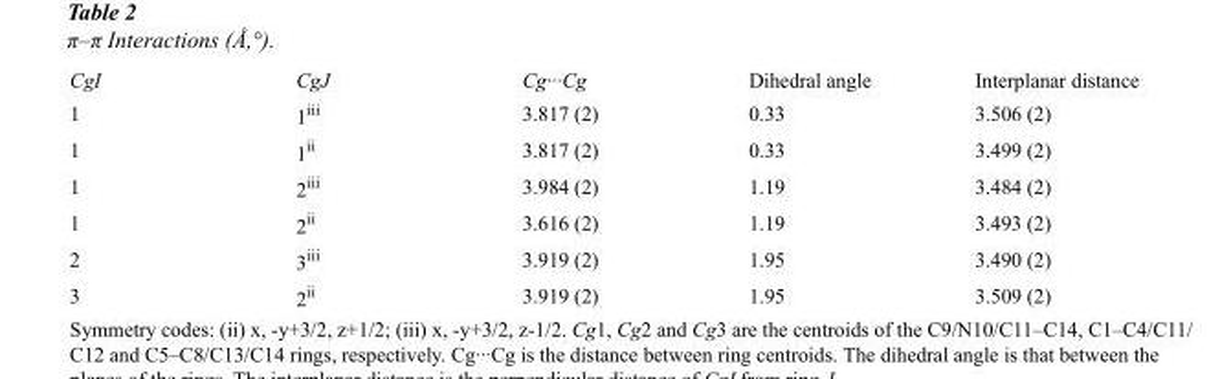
<table><thead><tr><td>CgI</td><td>CgJ</td><td>Cg···Cg</td><td>Dihedral angle</td><td>Interplanar distance</td></tr></thead><tbody><tr><td>1</td><td>1<sup>iii</sup></td><td>3.817 (2)</td><td>0.33</td><td>3.506 (2)</td></tr><tr><td>1</td><td>1<sup>ii</sup></td><td>3.817 (2)</td><td>0.33</td><td>3.499 (2)</td></tr><tr><td>1</td><td>2<sup>iii</sup></td><td>3.984 (2)</td><td>1.19</td><td>3.484 (2)</td></tr><tr><td>1</td><td>2<sup>ii</sup></td><td>3.616 (2)</td><td>1.19</td><td>3.493 (2)</td></tr><tr><td>2</td><td>3<sup>iii</sup></td><td>3.919 (2)</td><td>1.95</td><td>3.490 (2)</td></tr><tr><td>3</td><td>2<sup>ii</sup></td><td>3.919 (2)</td><td>1.95</td><td>3.509 (2)</td></tr></tbody></table>